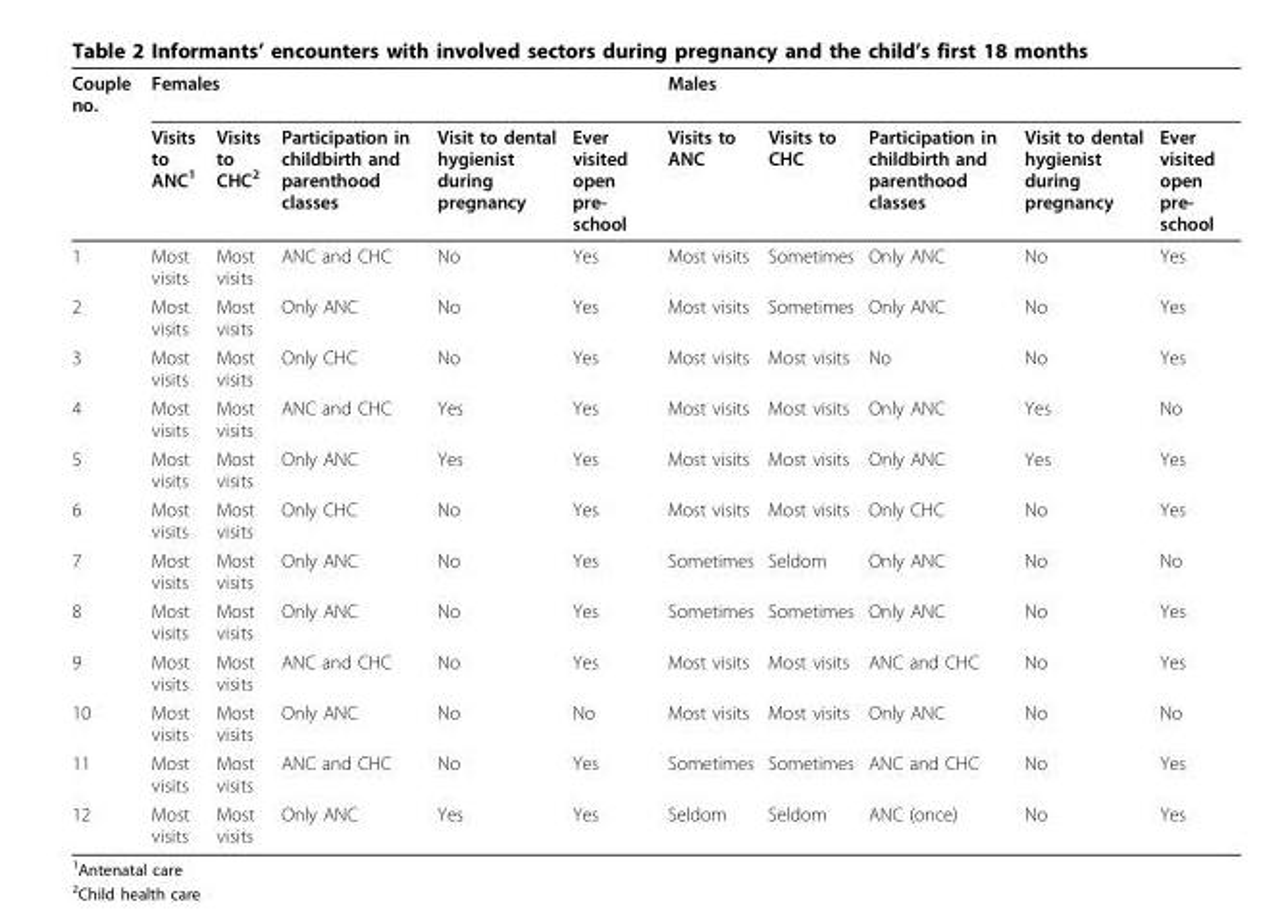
<table><thead><tr><td rowspan="2">Couple no.</td><td colspan="5">Females</td><td colspan="4">Males</td><td rowspan="2">Ever visited open pre- school</td></tr><tr><td>Visits to ANC<sup>1</sup></td><td>Visits to CHC<sup>2</sup></td><td>Participation in childbirth and parenthood classes</td><td>Visit to dental hygienist during pregnancy</td><td>Ever visited open pre- school</td><td>Visits to ANC</td><td>Visits to CHC</td><td>Participation in childbirth and parenthood classes</td><td>Visit to dental hygienist during pregnancy</td></tr></thead><tbody><tr><td>1</td><td>Most visits</td><td>Most visits</td><td>ANC and CHC</td><td>No</td><td>Yes</td><td>Most visits</td><td>Sometimes</td><td>Only ANC</td><td>No</td><td>Yes</td></tr><tr><td>2</td><td>Most visits</td><td>Most visits</td><td>Only ANC</td><td>No</td><td>Yes</td><td>Most visits</td><td>Sometimes</td><td>Only ANC</td><td>No</td><td>Yes</td></tr><tr><td>3</td><td>Most visits</td><td>Most visits</td><td>Only CHC</td><td>No</td><td>Yes</td><td>Most visits</td><td>Most visits</td><td>No</td><td>No</td><td>Yes</td></tr><tr><td>4</td><td>Most visits</td><td>Most visits</td><td>ANC and CHC</td><td>Yes</td><td>Yes</td><td>Most visits</td><td>Most visits</td><td>Only ANC</td><td>Yes</td><td>No</td></tr><tr><td>5</td><td>Most visits</td><td>Most visits</td><td>Only ANC</td><td>Yes</td><td>Yes</td><td>Most visits</td><td>Most visits</td><td>Only ANC</td><td>Yes</td><td>Yes</td></tr><tr><td>6</td><td>Most visits</td><td>Most visits</td><td>Only CHC</td><td>No</td><td>Yes</td><td>Most visits</td><td>Most visits</td><td>Only CHC</td><td>No</td><td>Yes</td></tr><tr><td>7</td><td>Most visits</td><td>Most visits</td><td>Only ANC</td><td>No</td><td>Yes</td><td>Sometimes</td><td>Seldom</td><td>Only ANC</td><td>No</td><td>No</td></tr><tr><td>8</td><td>Most visits</td><td>Most visits</td><td>Only ANC</td><td>No</td><td>Yes</td><td>Sometimes</td><td>Sometimes</td><td>Only ANC</td><td>No</td><td>Yes</td></tr><tr><td>9</td><td>Most visits</td><td>Most visits</td><td>ANC and CHC</td><td>No</td><td>Yes</td><td>Most visits</td><td>Most visits</td><td>ANC and CHC</td><td>No</td><td>Yes</td></tr><tr><td>10</td><td>Most visits</td><td>Most visits</td><td>Only ANC</td><td>No</td><td>No</td><td>Most visits</td><td>Most visits</td><td>Only ANC</td><td>No</td><td>No</td></tr><tr><td>11</td><td>Most visits</td><td>Most visits</td><td>ANC and CHC</td><td>No</td><td>Yes</td><td>Sometimes</td><td>Sometimes</td><td>ANC and CHC</td><td>No</td><td>Yes</td></tr><tr><td>12</td><td>Most visits</td><td>Most visits</td><td>Only ANC</td><td>Yes</td><td>Yes</td><td>Seldom</td><td>Seldom</td><td>ANC (once)</td><td>No</td><td>Yes</td></tr></tbody></table>